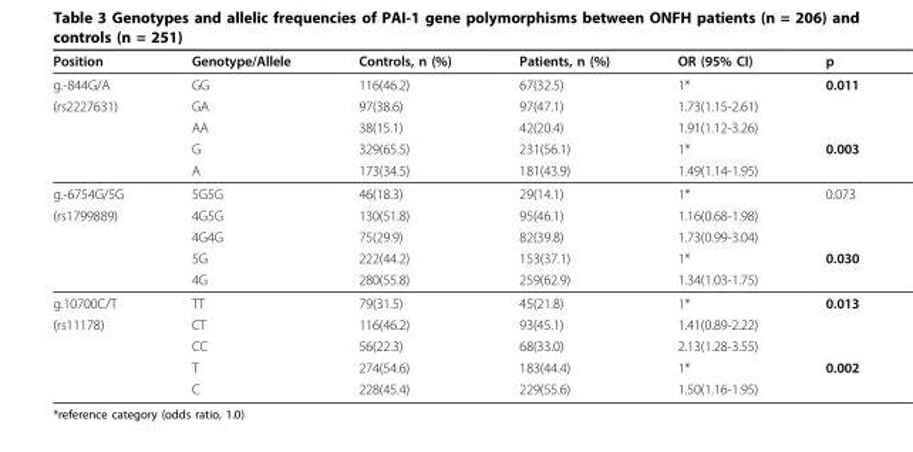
<table><thead><tr><td>Position</td><td>Genotype/Allele</td><td>Controls, n (%)</td><td>Patients, n (%)</td><td>OR (95% CI)</td><td>p</td></tr></thead><tbody><tr><td>g.-844G/A</td><td>GG</td><td>116(46.2)</td><td>67(32.5)</td><td>1*</td><td>0.011</td></tr><tr><td rowspan="4">(rs2227631)</td><td>GA</td><td>97(38.6)</td><td>97(47.1)</td><td>1.73(1.15-2.61)</td><td></td></tr><tr><td>AA</td><td>38(15.1)</td><td>42(20.4)</td><td>1.91(1.12-3.26)</td><td></td></tr><tr><td>G</td><td>329(65.5)</td><td>231(56.1)</td><td>1*</td><td>0.003</td></tr><tr><td>A</td><td>173(34.5)</td><td>181(43.9)</td><td>1.49(1.14-1.95)</td><td></td></tr><tr><td>g.-6754G/5G</td><td>5G5G</td><td>46(18.3)</td><td>29(14.1)</td><td>1*</td><td>0.073</td></tr><tr><td rowspan="4">(rs1799889)</td><td>4G5G</td><td>130(51.8)</td><td>95(46.1)</td><td>1.16(0.68-1.98)</td><td></td></tr><tr><td>4G4G</td><td>75(29.9)</td><td>82(39.8)</td><td>1.73(0.99-3.04)</td><td></td></tr><tr><td>5G</td><td>222(44.2)</td><td>153(37.1)</td><td>1*</td><td>0.030</td></tr><tr><td>4G</td><td>280(55.8)</td><td>259(62.9)</td><td>1.34(1.03-1.75)</td><td></td></tr><tr><td>g.10700C/T</td><td>TT</td><td>79(31.5)</td><td>45(21.8)</td><td>1*</td><td>0.013</td></tr><tr><td rowspan="4">(rs11178)</td><td>CT</td><td>116(46.2)</td><td>93(45.1)</td><td>1.41(0.89-2.22)</td><td></td></tr><tr><td>CC</td><td>56(22.3)</td><td>68(33.0)</td><td>2.13(1.28-3.55)</td><td></td></tr><tr><td>T</td><td>274(54.6)</td><td>183(44.4)</td><td>1*</td><td>0.002</td></tr><tr><td>C</td><td>228(45.4)</td><td>229(55.6)</td><td>1.50(1.16-1.95)</td><td></td></tr></tbody></table>